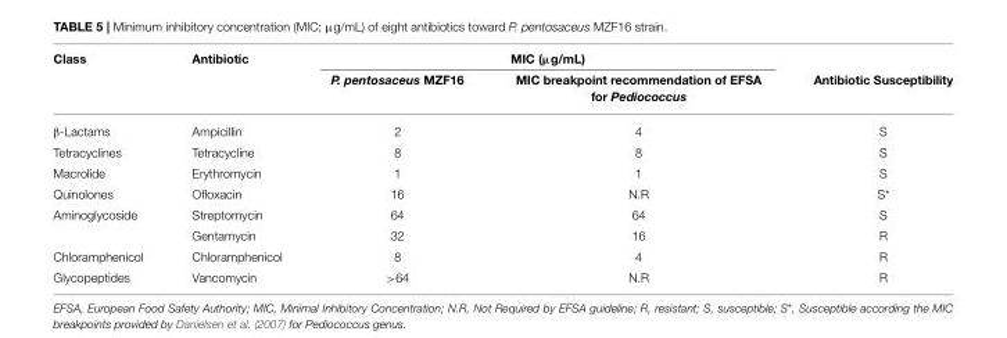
<table><thead><tr><td rowspan="2">Class</td><td rowspan="2">Antibiotic</td><td colspan="2">MIC (µg/mL)</td><td rowspan="2">Antibiotic Susceptibility</td></tr><tr><td>P. pentosaceus MZF16</td><td>MIC breakpoint recommendation of EFSA for Pediococcus</td></tr></thead><tbody><tr><td>β-Lactams</td><td>Ampicillin</td><td>2</td><td>4</td><td>S</td></tr><tr><td>Tetracyclines</td><td>Tetracycline</td><td>8</td><td>8</td><td>S</td></tr><tr><td>Macrolide</td><td>Erythromycin</td><td>1</td><td>1</td><td>S</td></tr><tr><td>Quinolones</td><td>Ofloxacin</td><td>16</td><td>N.R</td><td>S*</td></tr><tr><td rowspan="2">Aminoglycoside</td><td>Streptomycin</td><td>64</td><td>64</td><td>S</td></tr><tr><td>Gentamycin</td><td>32</td><td>16</td><td>R</td></tr><tr><td>Chloramphenicol</td><td>Chloramphenicol</td><td>8</td><td>4</td><td>R</td></tr><tr><td>Glycopeptides</td><td>Vancomycin</td><td>&gt;64</td><td>N.R</td><td>R</td></tr></tbody></table>